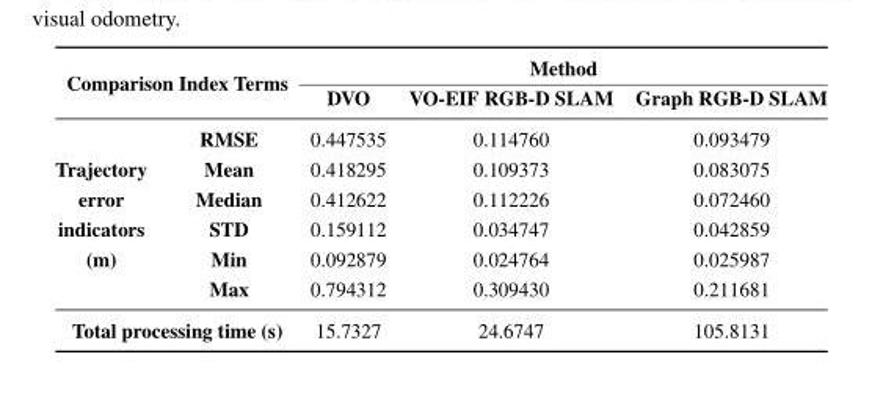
<table><thead><tr><td rowspan="2" colspan="2">Comparison Index Terms</td><td colspan="3">Method</td></tr><tr><td rowspan="2">DVO 0.447535</td><td rowspan="2">VO-EIF RGB-D SLAM 0.114760</td><td rowspan="2">Graph RGB-D SLAM 0.093479</td></tr><tr><td></td><td>RMSE</td></tr></thead><tbody><tr><td>Trajectory</td><td>Mean</td><td>0.418295</td><td>0.109373</td><td>0.083075</td></tr><tr><td>error</td><td>Median</td><td>0.412622</td><td>0.112226</td><td>0.072460</td></tr><tr><td>indicators</td><td>STD</td><td>0.159112</td><td>0.034747</td><td>0.042859</td></tr><tr><td rowspan="2">(m)</td><td>Min</td><td>0.092879</td><td>0.024764</td><td>0.025987</td></tr><tr><td>Max</td><td>0.794312</td><td>0.309430</td><td>0.211681</td></tr><tr><td colspan="2">Total processing time (s)</td><td>15.7327</td><td>24.6747</td><td>105.8131</td></tr></tbody></table>